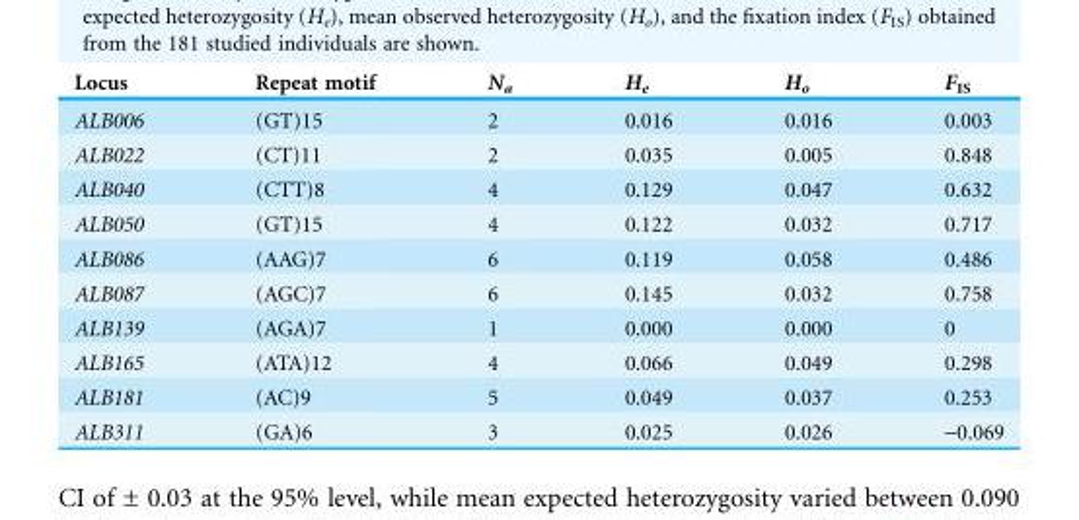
<table><thead><tr><td>Locus</td><td>Repeat motif</td><td>N<sub>a</sub></td><td>H<sub>e</sub></td><td>H<sub>o</sub></td><td>F<sub>IS</sub></td></tr></thead><tbody><tr><td>ALB006</td><td>(GT)15</td><td>2</td><td>0.016</td><td>0.016</td><td>0.003</td></tr><tr><td>ALB022</td><td>(CT)11</td><td>2</td><td>0.035</td><td>0.005</td><td>0.848</td></tr><tr><td>ALB040</td><td>(CTT)8</td><td>4</td><td>0.129</td><td>0.047</td><td>0.632</td></tr><tr><td>ALB050</td><td>(GT)15</td><td>4</td><td>0.122</td><td>0.032</td><td>0.717</td></tr><tr><td>ALB086</td><td>(AAG)7</td><td>6</td><td>0.119</td><td>0.058</td><td>0.486</td></tr><tr><td>ALB087</td><td>(AGC)7</td><td>6</td><td>0.145</td><td>0.032</td><td>0.758</td></tr><tr><td>ALB139</td><td>(AGA)7</td><td>1</td><td>0.000</td><td>0.000</td><td>0</td></tr><tr><td>ALB165</td><td>(ATA)12</td><td>4</td><td>0.066</td><td>0.049</td><td>0.298</td></tr><tr><td>ALB181</td><td>(AC)9</td><td>5</td><td>0.049</td><td>0.037</td><td>0.253</td></tr><tr><td>ALB311</td><td>(GA)6</td><td>3</td><td>0.025</td><td>0.026</td><td>-0.069</td></tr></tbody></table>